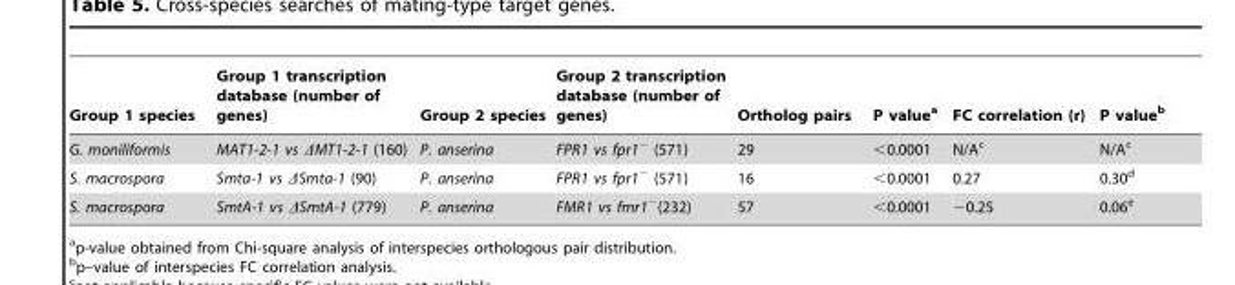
<table><thead><tr><td>Group 1 species</td><td>Group 1 transcription database (number of genes)</td><td>Group 2 species</td><td>Group 2 transcription database (number of genes)</td><td>Ortholog pairs</td><td>P value<sup>a</sup></td><td>FC correlation (r)</td><td>P value<sup>b</sup></td></tr></thead><tbody><tr><td>G. moniliformis</td><td>MAT1-2-1 vs ΔMT1-2-1 (160)</td><td>P. anserina</td><td>FPR1 vs fpr1<sup>−</sup> (571)</td><td>29</td><td>&lt;0.0001</td><td>N/A<sup>c</sup></td><td>N/A<sup>c</sup></td></tr><tr><td>S. macrospora</td><td>Smta-1 vs ΔSmta-1 (90)</td><td>P. anserina</td><td>FPR1 vs fpr1<sup>−</sup> (571)</td><td>16</td><td>&lt;0.0001</td><td>0.27</td><td>0.30<sup>d</sup></td></tr><tr><td>S. macrospora</td><td>SmtA-1 vs ΔSmtA-1 (779)</td><td>P. anserina</td><td>FMR1 vs fmr1<sup>−</sup>(232)</td><td>57</td><td>&lt;0.0001</td><td>−0.25</td><td>0.06<sup>e</sup></td></tr></tbody></table>